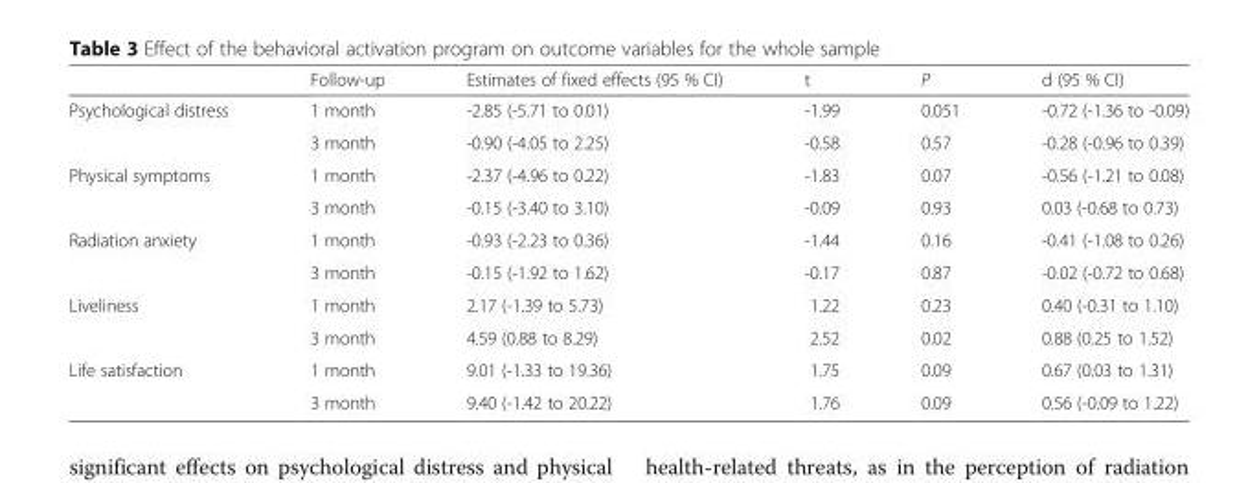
<table><thead><tr><td></td><td>Follow-up</td><td>Estimates of fixed effects (95 % CI)</td><td>t</td><td>P</td><td>d (95 % CI)</td></tr></thead><tbody><tr><td rowspan="2">Psychological distress</td><td>1 month</td><td>-2.85 (-5.71 to 0.01)</td><td>-1.99</td><td>0.051</td><td>-0.72 (-1.36 to -0.09)</td></tr><tr><td>3 month</td><td>-0.90 (-4.05 to 2.25)</td><td>-0.58</td><td>0.57</td><td>-0.28 (-0.96 to 0.39)</td></tr><tr><td rowspan="2">Physical symptoms</td><td>1 month</td><td>-2.37 (-4.96 to 0.22)</td><td>-1.83</td><td>0.07</td><td>-0.56 (-1.21 to 0.08)</td></tr><tr><td>3 month</td><td>-0.15 (-3.40 to 3.10)</td><td>-0.09</td><td>0.93</td><td>0.03 (-0.68 to 0.73)</td></tr><tr><td rowspan="2">Radiation anxiety</td><td>1 month</td><td>-0.93 (-2.23 to 0.36)</td><td>-1.44</td><td>0.16</td><td>-0.41 (-1.08 to 0.26)</td></tr><tr><td>3 month</td><td>-0.15 (-1.92 to 1.62)</td><td>-0.17</td><td>0.87</td><td>-0.02 (-0.72 to 0.68)</td></tr><tr><td rowspan="2">Liveliness</td><td>1 month</td><td>2.17 (-1.39 to 5.73)</td><td>1.22</td><td>0.23</td><td>0.40 (-0.31 to 1.10)</td></tr><tr><td>3 month</td><td>4.59 (0.88 to 8.29)</td><td>2.52</td><td>0.02</td><td>0.88 (0.25 to 1.52)</td></tr><tr><td rowspan="2">Life satisfaction</td><td>1 month</td><td>9.01 (-1.33 to 19.36)</td><td>1.75</td><td>0.09</td><td>0.67 (0.03 to 1.31)</td></tr><tr><td>3 month</td><td>9.40 (-1.42 to 20.22)</td><td>1.76</td><td>0.09</td><td>0.56 (-0.09 to 1.22)</td></tr></tbody></table>